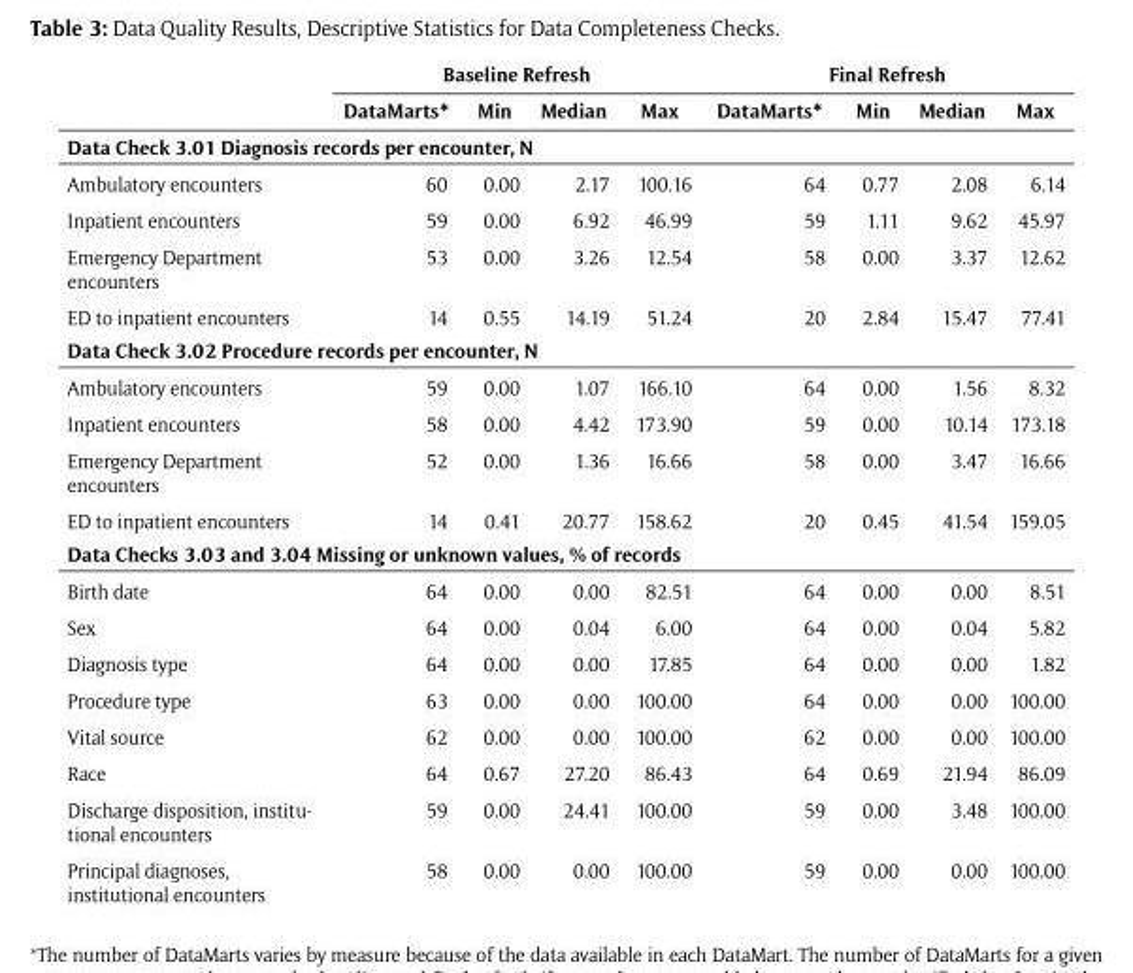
<table><thead><tr><td rowspan="2"></td><td colspan="4">Baseline Refresh</td><td colspan="4">Final Refresh</td></tr><tr><td>DataMarts*</td><td>Min</td><td>Median</td><td>Max</td><td>DataMarts*</td><td>Min</td><td>Median</td><td>Max</td></tr><tr><td colspan="9">Data Check 3.01 Diagnosis records per encounter, N</td></tr></thead><tbody><tr><td>Ambulatory encounters</td><td>60</td><td>0.00</td><td>2.17</td><td>100.16</td><td>64</td><td>0.77</td><td>2.08</td><td>6.14</td></tr><tr><td>Inpatient encounters</td><td>59</td><td>0.00</td><td>6.92</td><td>46.99</td><td>59</td><td>1.11</td><td>9.62</td><td>45.97</td></tr><tr><td>Emergency Department encounters</td><td>53</td><td>0.00</td><td>3.26</td><td>12.54</td><td>58</td><td>0.00</td><td>3.37</td><td>12.62</td></tr><tr><td>ED to inpatient encounters</td><td>14</td><td>0.55</td><td>14.19</td><td>51.24</td><td>20</td><td>2.84</td><td>15.47</td><td>77.41</td></tr><tr><td colspan="9">Data Check 3.02 Procedure records per encounter, N</td></tr><tr><td>Ambulatory encounters</td><td>59</td><td>0.00</td><td>1.07</td><td>166.10</td><td>64</td><td>0.00</td><td>1.56</td><td>8.32</td></tr><tr><td>Inpatient encounters</td><td>58</td><td>0.00</td><td>4.42</td><td>173.90</td><td>59</td><td>0.00</td><td>10.14</td><td>173.18</td></tr><tr><td>Emergency Department encounters</td><td>52</td><td>0.00</td><td>1.36</td><td>16.66</td><td>58</td><td>0.00</td><td>3.47</td><td>16.66</td></tr><tr><td>ED to inpatient encounters</td><td>14</td><td>0.41</td><td>20.77</td><td>158.62</td><td>20</td><td>0.45</td><td>41.54</td><td>159.05</td></tr><tr><td colspan="9">Data Checks 3.03 and 3.04 Missing or unknown values, % of records</td></tr><tr><td>Birth date</td><td>64</td><td>0.00</td><td>0.00</td><td>82.51</td><td>64</td><td>0.00</td><td>0.00</td><td>8.51</td></tr><tr><td>Sex</td><td>64</td><td>0.00</td><td>0.04</td><td>6.00</td><td>64</td><td>0.00</td><td>0.04</td><td>5.82</td></tr><tr><td>Diagnosis type</td><td>64</td><td>0.00</td><td>0.00</td><td>17.85</td><td>64</td><td>0.00</td><td>0.00</td><td>1.82</td></tr><tr><td>Procedure type</td><td>63</td><td>0.00</td><td>0.00</td><td>100.00</td><td>64</td><td>0.00</td><td>0.00</td><td>100.00</td></tr><tr><td>Vital source</td><td>62</td><td>0.00</td><td>0.00</td><td>100.00</td><td>62</td><td>0.00</td><td>0.00</td><td>100.00</td></tr><tr><td>Race</td><td>64</td><td>0.67</td><td>27.20</td><td>86.43</td><td>64</td><td>0.69</td><td>21.94</td><td>86.09</td></tr><tr><td>Discharge disposition, institu- tional encounters</td><td>59</td><td>0.00</td><td>24.41</td><td>100.00</td><td>59</td><td>0.00</td><td>3.48</td><td>100.00</td></tr><tr><td>Principal diagnoses, institutional encounters</td><td>58</td><td>0.00</td><td>0.00</td><td>100.00</td><td>59</td><td>0.00</td><td>0.00</td><td>100.00</td></tr></tbody></table>